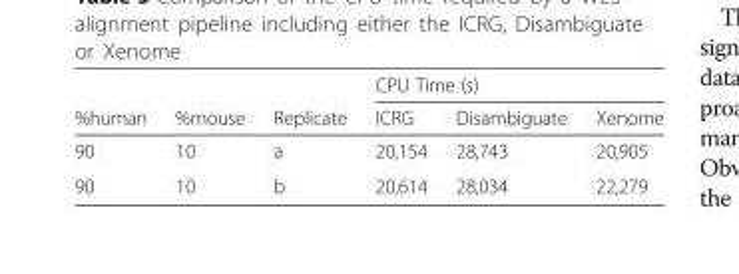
<table><thead><tr><td rowspan="2">%human</td><td rowspan="2">%mouse</td><td rowspan="2">Replicate</td><td colspan="3">CPU Time (s)</td></tr><tr><td>ICRG</td><td>Disambiguate</td><td>Xenome</td></tr></thead><tbody><tr><td>90</td><td>10</td><td>a</td><td>20,154</td><td>28,743</td><td>20,905</td></tr><tr><td>90</td><td>10</td><td>b</td><td>20,614</td><td>28,034</td><td>22,279</td></tr></tbody></table>